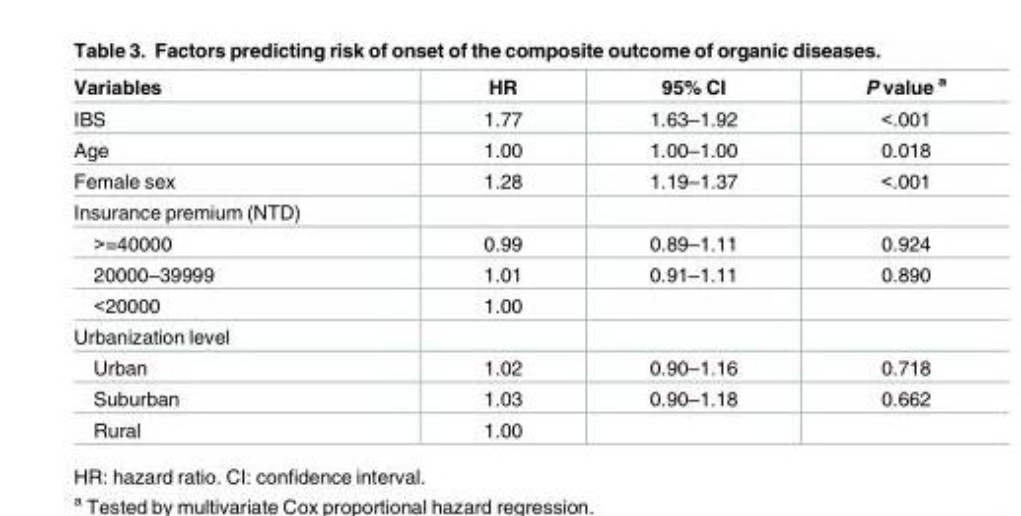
<table><thead><tr><td>Variables</td><td>HR</td><td>95% CI</td><td>P value <sup>a</sup></td></tr></thead><tbody><tr><td>IBS</td><td>1.77</td><td>1.63–1.92</td><td>&lt;.001</td></tr><tr><td>Age</td><td>1.00</td><td>1.00–1.00</td><td>0.018</td></tr><tr><td>Female sex</td><td>1.28</td><td>1.19–1.37</td><td>&lt;.001</td></tr><tr><td colspan="4">Insurance premium (NTD)</td></tr><tr><td>&gt;=40000</td><td>0.99</td><td>0.89–1.11</td><td>0.924</td></tr><tr><td>20000–39999</td><td>1.01</td><td>0.91–1.11</td><td>0.890</td></tr><tr><td>&lt;20000</td><td>1.00</td><td></td><td></td></tr><tr><td colspan="4">Urbanization level</td></tr><tr><td>Urban</td><td>1.02</td><td>0.90–1.16</td><td>0.718</td></tr><tr><td>Suburban</td><td>1.03</td><td>0.90–1.18</td><td>0.662</td></tr><tr><td>Rural</td><td>1.00</td><td></td><td></td></tr></tbody></table>